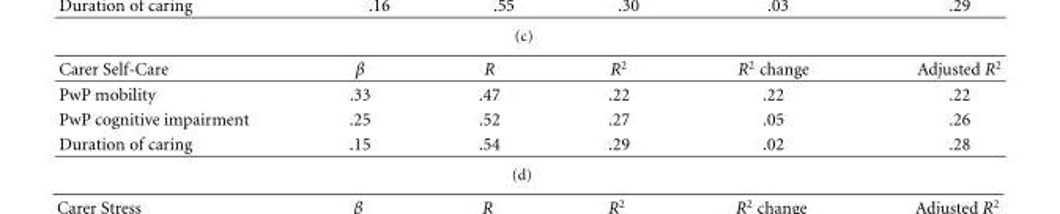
<table><thead><tr><td>Carer Self-Care</td><td>β</td><td>R</td><td>R<sup>2</sup></td><td>R<sup>2</sup> change</td><td>Adjusted R<sup>2</sup></td></tr></thead><tbody><tr><td>PwP mobility</td><td>.33</td><td>.47</td><td>.22</td><td>.22</td><td>.22</td></tr><tr><td>PwP cognitive impairment</td><td>.25</td><td>.52</td><td>.27</td><td>.05</td><td>.26</td></tr><tr><td>Duration of caring</td><td>.15</td><td>.54</td><td>.29</td><td>.02</td><td>.28</td></tr></tbody></table>